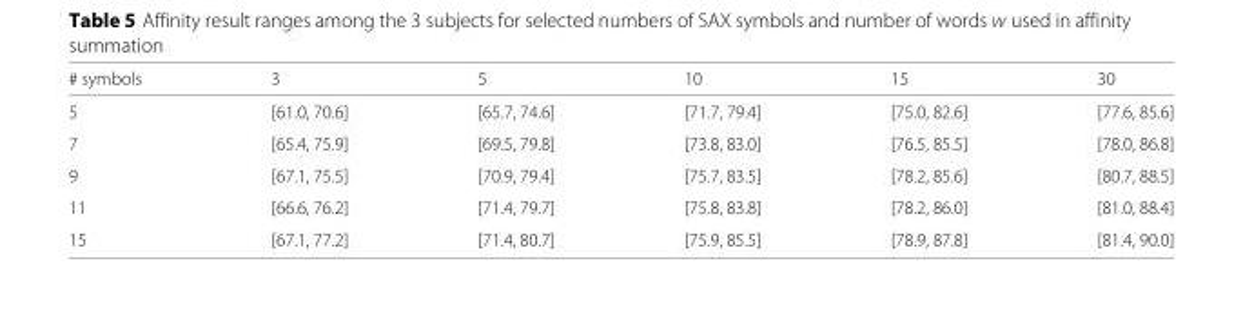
<table><thead><tr><td># symbols</td><td>3</td><td>5</td><td>10</td><td>15</td><td>30</td></tr></thead><tbody><tr><td>5</td><td>[61.0, 70.6]</td><td>[65.7, 74.6]</td><td>[71.7, 79.4]</td><td>[75.0, 82.6]</td><td>[77.6, 85.6]</td></tr><tr><td>7</td><td>[65.4, 75.9]</td><td>[69.5, 79.8]</td><td>[73.8, 83.0]</td><td>[76.5, 85.5]</td><td>[78.0, 86.8]</td></tr><tr><td>9</td><td>[67.1, 75.5]</td><td>[70.9, 79.4]</td><td>[75.7, 83.5]</td><td>[78.2, 85.6]</td><td>[80.7, 88.5]</td></tr><tr><td>11</td><td>[66.6, 76.2]</td><td>[71.4, 79.7]</td><td>[75.8, 83.8]</td><td>[78.2, 86.0]</td><td>[81.0, 88.4]</td></tr><tr><td>15</td><td>[67.1, 77.2]</td><td>[71.4, 80.7]</td><td>[75.9, 85.5]</td><td>[78.9, 87.8]</td><td>[81.4, 90.0]</td></tr></tbody></table>